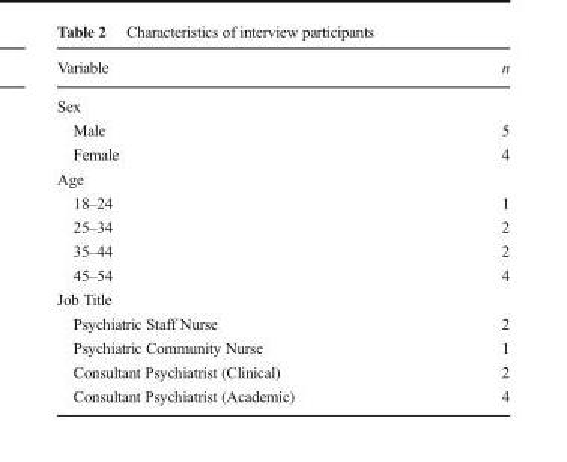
<table><thead><tr><td>Variable</td><td>n</td></tr></thead><tbody><tr><td colspan="2">Sex</td></tr><tr><td>Male</td><td>5</td></tr><tr><td>Female</td><td>4</td></tr><tr><td colspan="2">Age</td></tr><tr><td>18–24</td><td>1</td></tr><tr><td>25–34</td><td>2</td></tr><tr><td>35–44</td><td>2</td></tr><tr><td>45–54</td><td>4</td></tr><tr><td colspan="2">Job Title</td></tr><tr><td>Psychiatric Staff Nurse</td><td>2</td></tr><tr><td>Psychiatric Community Nurse</td><td>1</td></tr><tr><td>Consultant Psychiatrist (Clinical)</td><td>2</td></tr><tr><td>Consultant Psychiatrist (Academic)</td><td>4</td></tr></tbody></table>